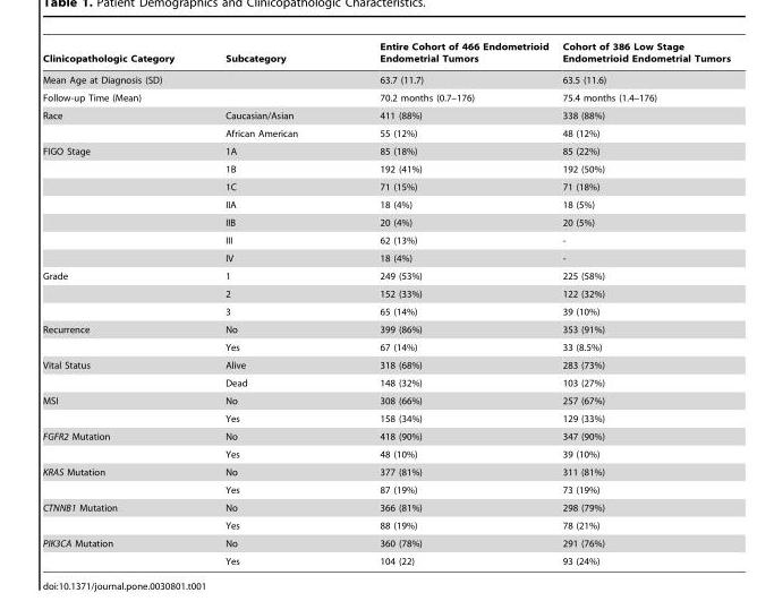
<table><thead><tr><td>Clinicopathologic Category</td><td>Subcategory</td><td>Entire Cohort of 466 Endometrioid Endometrial Tumors</td><td>Cohort of 386 Low Stage Endometrioid Endometrial Tumors</td></tr></thead><tbody><tr><td>Mean Age at Diagnosis (SD)</td><td></td><td>63.7 (11.7)</td><td>63.5 (11.6)</td></tr><tr><td>Follow-up Time (Mean)</td><td></td><td>70.2 months (0.7–176)</td><td>75.4 months (1.4–176)</td></tr><tr><td rowspan="2">Race</td><td>Caucasian/Asian</td><td>411 (88%)</td><td>338 (88%)</td></tr><tr><td>African American</td><td>55 (12%)</td><td>48 (12%)</td></tr><tr><td rowspan="7">FIGO Stage</td><td>1A</td><td>85 (18%)</td><td>85 (22%)</td></tr><tr><td>1B</td><td>192 (41%)</td><td>192 (50%)</td></tr><tr><td>1C</td><td>71 (15%)</td><td>71 (18%)</td></tr><tr><td>IIA</td><td>18 (4%)</td><td>18 (5%)</td></tr><tr><td>IIB</td><td>20 (4%)</td><td>20 (5%)</td></tr><tr><td>III</td><td>62 (13%)</td><td>-</td></tr><tr><td>IV</td><td>18 (4%)</td><td>-</td></tr><tr><td rowspan="3">Grade</td><td>1</td><td>249 (53%)</td><td>225 (58%)</td></tr><tr><td>2</td><td>152 (33%)</td><td>122 (32%)</td></tr><tr><td>3</td><td>65 (14%)</td><td>39 (10%)</td></tr><tr><td rowspan="2">Recurrence</td><td>No</td><td>399 (86%)</td><td>353 (91%)</td></tr><tr><td>Yes</td><td>67 (14%)</td><td>33 (8.5%)</td></tr><tr><td rowspan="2">Vital Status</td><td>Alive</td><td>318 (68%)</td><td>283 (73%)</td></tr><tr><td>Dead</td><td>148 (32%)</td><td>103 (27%)</td></tr><tr><td rowspan="2">MSI</td><td>No</td><td>308 (66%)</td><td>257 (67%)</td></tr><tr><td>Yes</td><td>158 (34%)</td><td>129 (33%)</td></tr><tr><td rowspan="2">FGFR2 Mutation</td><td>No</td><td>418 (90%)</td><td>347 (90%)</td></tr><tr><td>Yes</td><td>48 (10%)</td><td>39 (10%)</td></tr><tr><td rowspan="2">KRAS Mutation</td><td>No</td><td>377 (81%)</td><td>311 (81%)</td></tr><tr><td>Yes</td><td>87 (19%)</td><td>73 (19%)</td></tr><tr><td rowspan="2">CTNNB1 Mutation</td><td>No</td><td>366 (81%)</td><td>298 (79%)</td></tr><tr><td>Yes</td><td>88 (19%)</td><td>78 (21%)</td></tr><tr><td rowspan="2">PIK3CA Mutation</td><td>No</td><td>360 (78%)</td><td>291 (76%)</td></tr><tr><td>Yes</td><td>104 (22)</td><td>93 (24%)</td></tr></tbody></table>